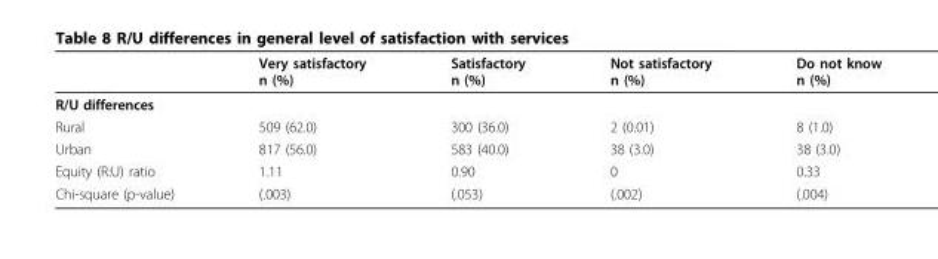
<table><thead><tr><td></td><td>Very satisfactory n (%)</td><td>Satisfactory n (%)</td><td>Not satisfactory n (%)</td><td>Do not know n (%)</td></tr></thead><tbody><tr><td colspan="5">R/U differences</td></tr><tr><td>Rural</td><td>509 (62.0)</td><td>300 (36.0)</td><td>2 (0.01)</td><td>8 (1.0)</td></tr><tr><td>Urban</td><td>817 (56.0)</td><td>583 (40.0)</td><td>38 (3.0)</td><td>38 (3.0)</td></tr><tr><td>Equity (R:U) ratio</td><td>1.11</td><td>0.90</td><td>0</td><td>0.33</td></tr><tr><td>Chi-square (p-value)</td><td>(.003)</td><td>(.053)</td><td>(.002)</td><td>(.004)</td></tr></tbody></table>